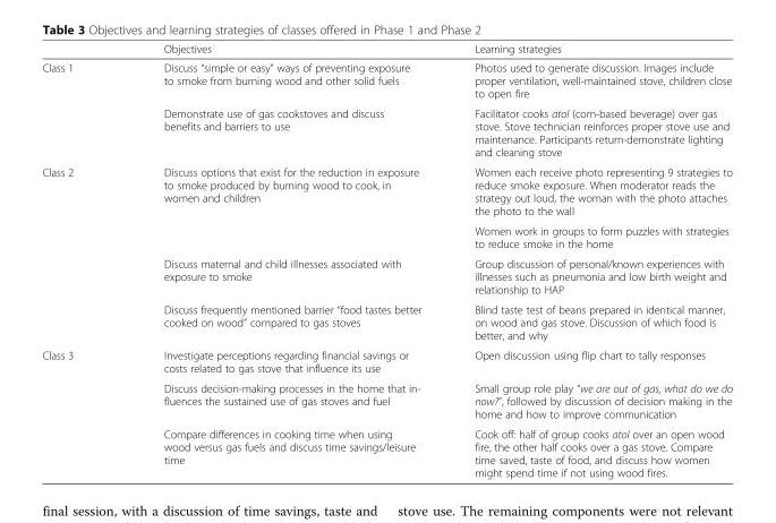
<table><thead><tr><td></td><td>Objectives</td><td>Learning strategies</td></tr></thead><tbody><tr><td rowspan="2">Class 1</td><td>Discuss “simple or easy” ways of preventing exposure to smoke from burning wood and other solid fuels</td><td>Photos used to generate discussion. Images include proper ventilation, well-maintained stove, children close to open fire</td></tr><tr><td>Demonstrate use of gas cookstoves and discuss benefits and barriers to use</td><td>Facilitator cooks atol (corn-based beverage) over gas stove. Stove technician reinforces proper stove use and maintenance. Participants return-demonstrate lighting and cleaning stove</td></tr><tr><td rowspan="4">Class 2</td><td rowspan="2">Discuss options that exist for the reduction in exposure to smoke produced by burning wood to cook, in women and children</td><td>Women each receive photo representing 9 strategies to reduce smoke exposure. When moderator reads the strategy out loud, the woman with the photo attaches the photo to the wall</td></tr><tr><td>Women work in groups to form puzzles with strategies to reduce smoke in the home</td></tr><tr><td>Discuss maternal and child illnesses associated with exposure to smoke</td><td>Group discussion of personal/known experiences with illnesses such as pneumonia and low birth weight and relationship to HAP</td></tr><tr><td>Discuss frequently mentioned barrier “food tastes better cooked on wood” compared to gas stoves</td><td>Blind taste test of beans prepared in identical manner, on wood and gas stove. Discussion of which food is better, and why</td></tr><tr><td rowspan="3">Class 3</td><td>Investigate perceptions regarding financial savings or costs related to gas stove that influence its use</td><td>Open discussion using flip chart to tally responses</td></tr><tr><td>Discuss decision-making processes in the home that in- fluences the sustained use of gas stoves and fuel</td><td>Small group role play “we are out of gas, what do we do now?”, followed by discussion of decision making in the home and how to improve communication</td></tr><tr><td>Compare differences in cooking time when using wood versus gas fuels and discuss time savings/leisure time</td><td>Cook off: half of group cooks atol over an open wood fire, the other half cooks over a gas stove. Compare time saved, taste of food, and discuss how women might spend time if not using wood fires.</td></tr></tbody></table>